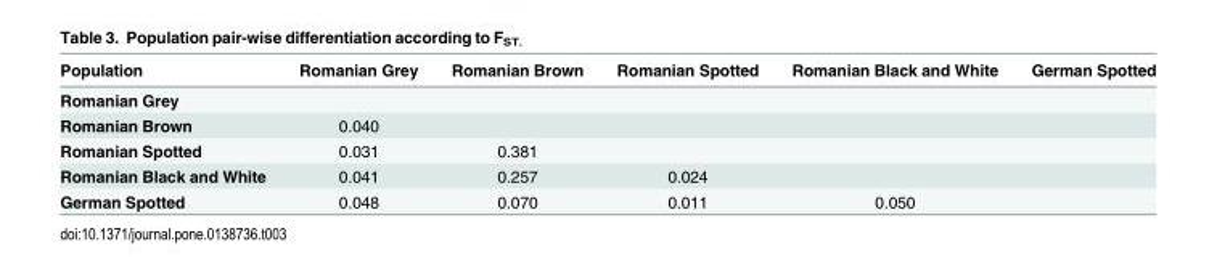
<table><thead><tr><td>Population</td><td>Romanian Grey</td><td>Romanian Brown</td><td>Romanian Spotted</td><td>Romanian Black and White</td><td>German Spotted</td></tr></thead><tbody><tr><td colspan="6">Romanian Grey</td></tr><tr><td>Romanian Brown</td><td>0.040</td><td></td><td></td><td></td><td></td></tr><tr><td>Romanian Spotted</td><td>0.031</td><td>0.381</td><td></td><td></td><td></td></tr><tr><td>Romanian Black and White</td><td>0.041</td><td>0.257</td><td>0.024</td><td></td><td></td></tr><tr><td>German Spotted</td><td>0.048</td><td>0.070</td><td>0.011</td><td>0.050</td><td></td></tr></tbody></table>